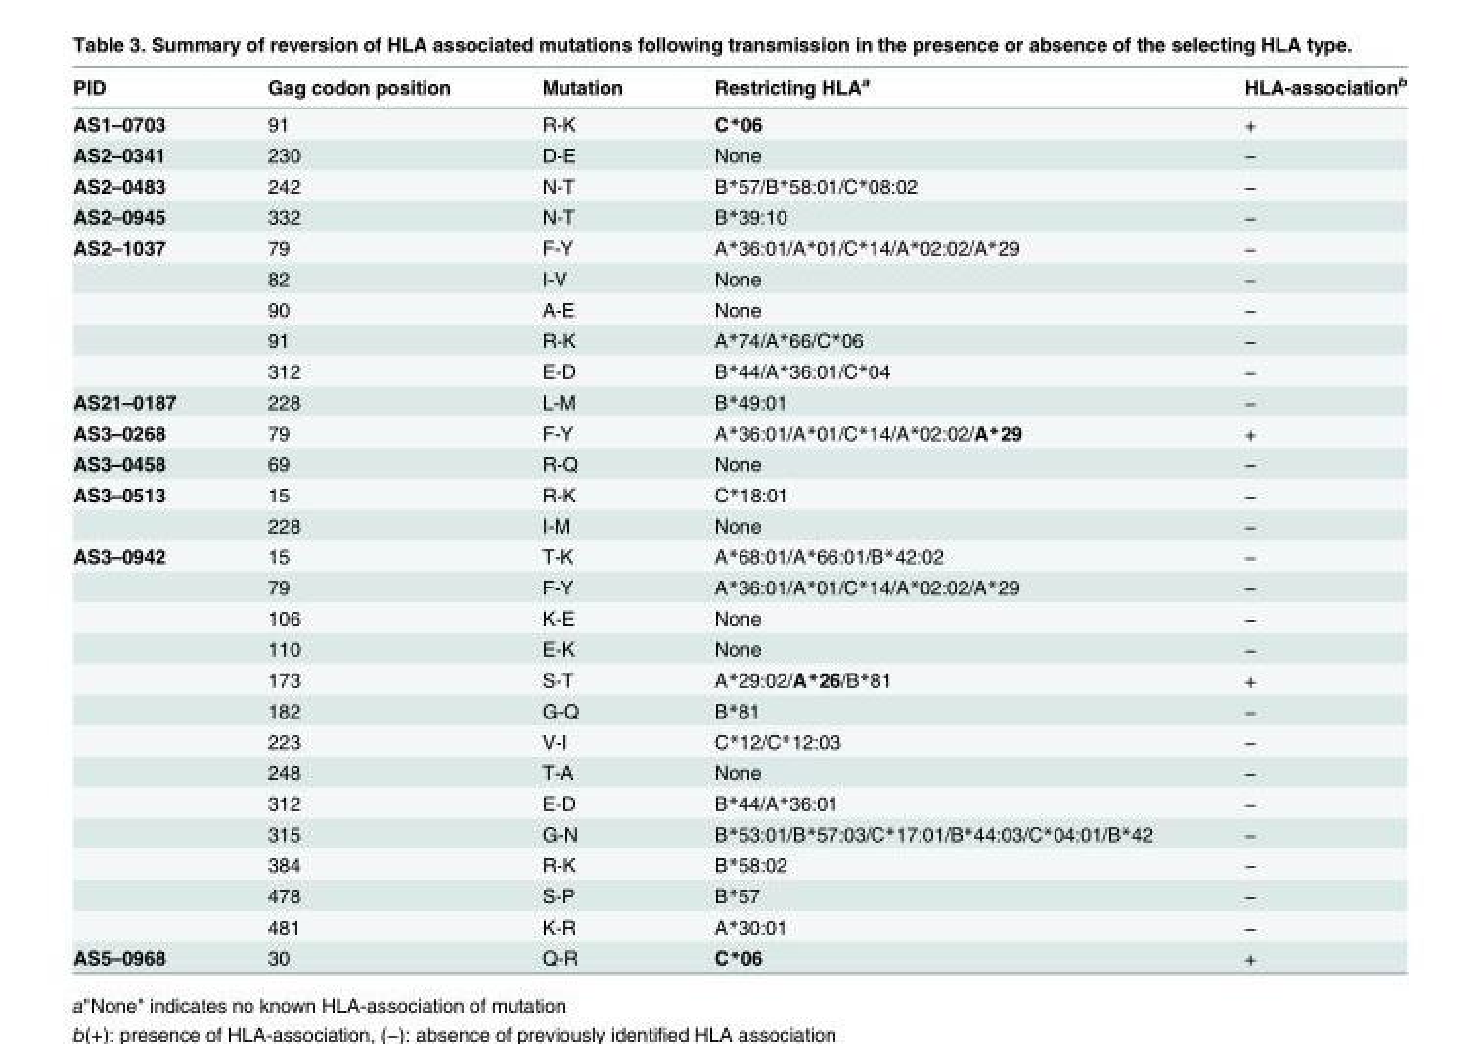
<table><thead><tr><td>PID</td><td>Gag codon position</td><td>Mutation</td><td>Restricting HLA<sup>a</sup></td><td>HLA-association<sup>b</sup></td></tr></thead><tbody><tr><td>AS1–0703</td><td>91</td><td>R-K</td><td>C*06</td><td>+</td></tr><tr><td>AS2–0341</td><td>230</td><td>D-E</td><td>None</td><td>−</td></tr><tr><td>AS2–0483</td><td>242</td><td>N-T</td><td>B*57/B*58:01/C*08:02</td><td>−</td></tr><tr><td>AS2–0945</td><td>332</td><td>N-T</td><td>B*39:10</td><td>−</td></tr><tr><td rowspan="5">AS2–1037</td><td>79</td><td>F-Y</td><td>A*36:01/A*01/C*14/A*02:02/A*29</td><td>−</td></tr><tr><td>82</td><td>I-V</td><td>None</td><td>−</td></tr><tr><td>90</td><td>A-E</td><td>None</td><td>−</td></tr><tr><td>91</td><td>R-K</td><td>A*74/A*66/C*06</td><td>−</td></tr><tr><td>312</td><td>E-D</td><td>B*44/A*36:01/C*04</td><td>−</td></tr><tr><td>AS21–0187</td><td>228</td><td>L-M</td><td>B*49:01</td><td>−</td></tr><tr><td>AS3–0268</td><td>79</td><td>F-Y</td><td>A*36:01/A*01/C*14/A*02:02/A*29</td><td>+</td></tr><tr><td>AS3–0458</td><td>69</td><td>R-Q</td><td>None</td><td>−</td></tr><tr><td rowspan="2">AS3–0513</td><td>15</td><td>R-K</td><td>C*18:01</td><td>−</td></tr><tr><td>228</td><td>I-M</td><td>None</td><td>−</td></tr><tr><td rowspan="13">AS3–0942</td><td>15</td><td>T-K</td><td>A*68:01/A*66:01/B*42:02</td><td>−</td></tr><tr><td>79</td><td>F-Y</td><td>A*36:01/A*01/C*14/A*02:02/A*29</td><td>−</td></tr><tr><td>106</td><td>K-E</td><td>None</td><td>−</td></tr><tr><td>110</td><td>E-K</td><td>None</td><td>−</td></tr><tr><td>173</td><td>S-T</td><td>A*29:02/A*26/B*81</td><td>+</td></tr><tr><td>182</td><td>G-Q</td><td>B*81</td><td>−</td></tr><tr><td>223</td><td>V-I</td><td>C*12/C*12:03</td><td>−</td></tr><tr><td>248</td><td>T-A</td><td>None</td><td>−</td></tr><tr><td>312</td><td>E-D</td><td>B*44/A*36:01</td><td>−</td></tr><tr><td>315</td><td>G-N</td><td>B*53:01/B*57:03/C*17:01/B*44:03/C*04:01/B*42</td><td>−</td></tr><tr><td>384</td><td>R-K</td><td>B*58:02</td><td>−</td></tr><tr><td>478</td><td>S-P</td><td>B*57</td><td>−</td></tr><tr><td>481</td><td>K-R</td><td>A*30:01</td><td>−</td></tr><tr><td>AS5–0968</td><td>30</td><td>Q-R</td><td>C*06</td><td>+</td></tr></tbody></table>